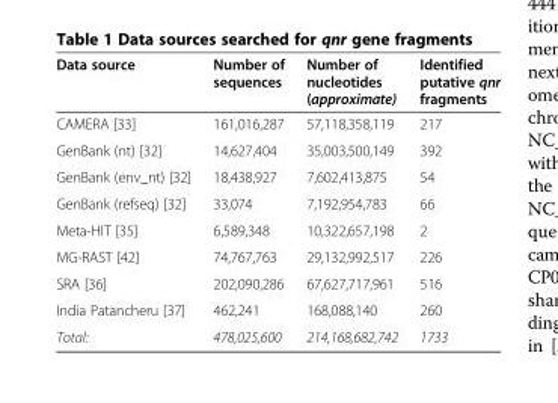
<table><thead><tr><td>Data source</td><td>Number of sequences</td><td>Number of nucleotides (approximate)</td><td>Identified putative qnr fragments</td></tr></thead><tbody><tr><td>CAMERA [33]</td><td>161,016,287</td><td>57,118,358,119</td><td>217</td></tr><tr><td>GenBank (nt) [32]</td><td>14,627,404</td><td>35,003,500,149</td><td>392</td></tr><tr><td>GenBank (env_nt) [32]</td><td>18,438,927</td><td>7,602,413,875</td><td>54</td></tr><tr><td>GenBank (refseq) [32]</td><td>33,074</td><td>7,192,954,783</td><td>66</td></tr><tr><td>Meta-HIT [35]</td><td>6,589,348</td><td>10,322,657,198</td><td>2</td></tr><tr><td>MG-RAST [42]</td><td>74,767,763</td><td>29,132,992,517</td><td>226</td></tr><tr><td>SRA [36]</td><td>202,090,286</td><td>67,627,717,961</td><td>516</td></tr><tr><td>India Patancheru [37]</td><td>462,241</td><td>168,088,140</td><td>260</td></tr><tr><td>Total:</td><td>478,025,600</td><td>214,168,682,742</td><td>1733</td></tr></tbody></table>